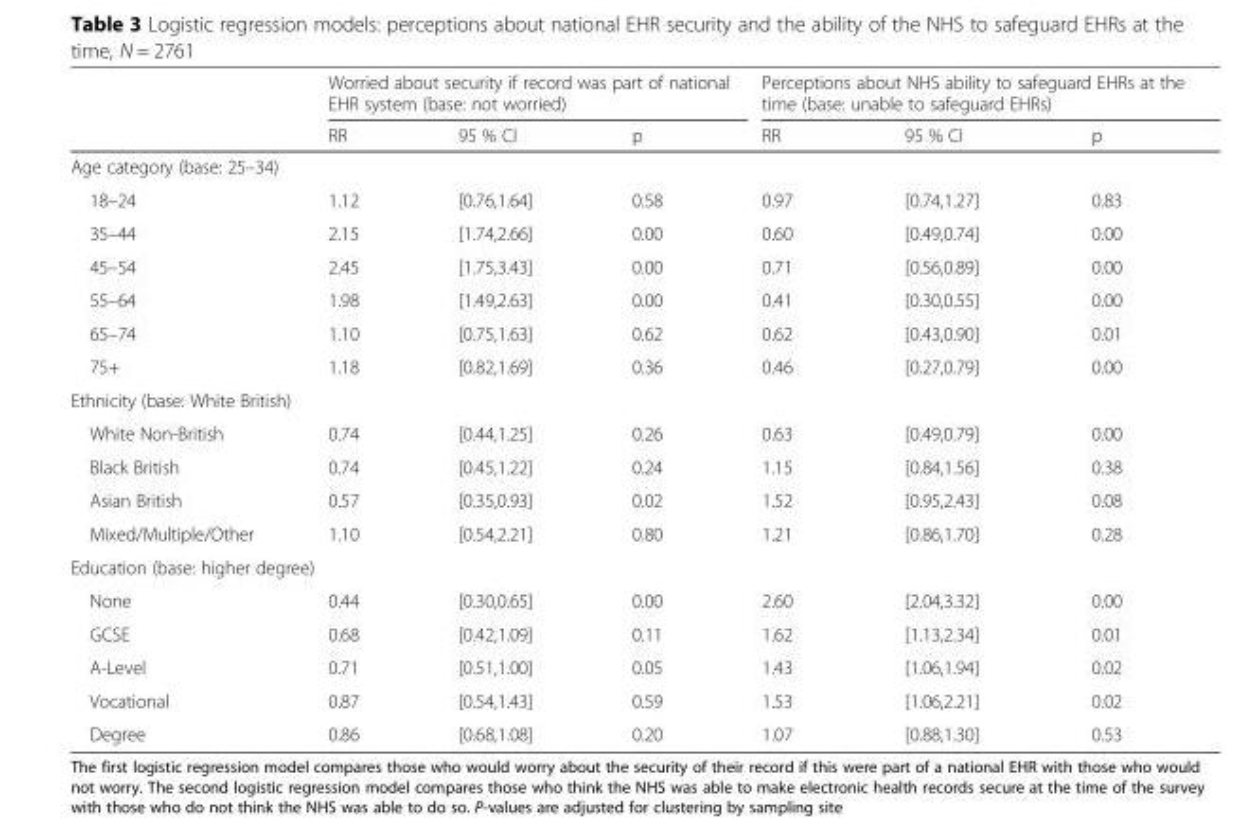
<table><thead><tr><td rowspan="2"></td><td colspan="3">Worried about security if record was part of national EHR system (base: not worried)</td><td colspan="3">Perceptions about NHS ability to safeguard EHRs at the time (base: unable to safeguard EHRs)</td></tr><tr><td>RR</td><td>95 % CI</td><td>p</td><td>RR</td><td>95 % CI</td><td>p</td></tr></thead><tbody><tr><td colspan="7">Age category (base: 25–34)</td></tr><tr><td>18–24</td><td>1.12</td><td>[0.76,1.64]</td><td>0.58</td><td>0.97</td><td>[0.74,1.27]</td><td>0.83</td></tr><tr><td>35–44</td><td>2.15</td><td>[1.74,2.66]</td><td>0.00</td><td>0.60</td><td>[0.49,0.74]</td><td>0.00</td></tr><tr><td>45–54</td><td>2.45</td><td>[1.75,3.43]</td><td>0.00</td><td>0.71</td><td>[0.56,0.89]</td><td>0.00</td></tr><tr><td>55–64</td><td>1.98</td><td>[1.49,2.63]</td><td>0.00</td><td>0.41</td><td>[0.30,0.55]</td><td>0.00</td></tr><tr><td>65–74</td><td>1.10</td><td>[0.75,1.63]</td><td>0.62</td><td>0.62</td><td>[0.43,0.90]</td><td>0.01</td></tr><tr><td>75+</td><td>1.18</td><td>[0.82,1.69]</td><td>0.36</td><td>0.46</td><td>[0.27,0.79]</td><td>0.00</td></tr><tr><td colspan="7">Ethnicity (base: White British)</td></tr><tr><td>White Non-British</td><td>0.74</td><td>[0.44,1.25]</td><td>0.26</td><td>0.63</td><td>[0.49,0.79]</td><td>0.00</td></tr><tr><td>Black British</td><td>0.74</td><td>[0.45,1.22]</td><td>0.24</td><td>1.15</td><td>[0.84,1.56]</td><td>0.38</td></tr><tr><td>Asian British</td><td>0.57</td><td>[0.35,0.93]</td><td>0.02</td><td>1.52</td><td>[0.95,2.43]</td><td>0.08</td></tr><tr><td>Mixed/Multiple/Other</td><td>1.10</td><td>[0.54,2.21]</td><td>0.80</td><td>1.21</td><td>[0.86,1.70]</td><td>0.28</td></tr><tr><td colspan="7">Education (base: higher degree)</td></tr><tr><td>None</td><td>0.44</td><td>[0.30,0.65]</td><td>0.00</td><td>2.60</td><td>[2.04,3.32]</td><td>0.00</td></tr><tr><td>GCSE</td><td>0.68</td><td>[0.42,1.09]</td><td>0.11</td><td>1.62</td><td>[1.13,2.34]</td><td>0.01</td></tr><tr><td>A-Level</td><td>0.71</td><td>[0.51,1.00]</td><td>0.05</td><td>1.43</td><td>[1.06,1.94]</td><td>0.02</td></tr><tr><td>Vocational</td><td>0.87</td><td>[0.54,1.43]</td><td>0.59</td><td>1.53</td><td>[1.06,2.21]</td><td>0.02</td></tr><tr><td>Degree</td><td>0.86</td><td>[0.68,1.08]</td><td>0.20</td><td>1.07</td><td>[0.88,1.30]</td><td>0.53</td></tr></tbody></table>